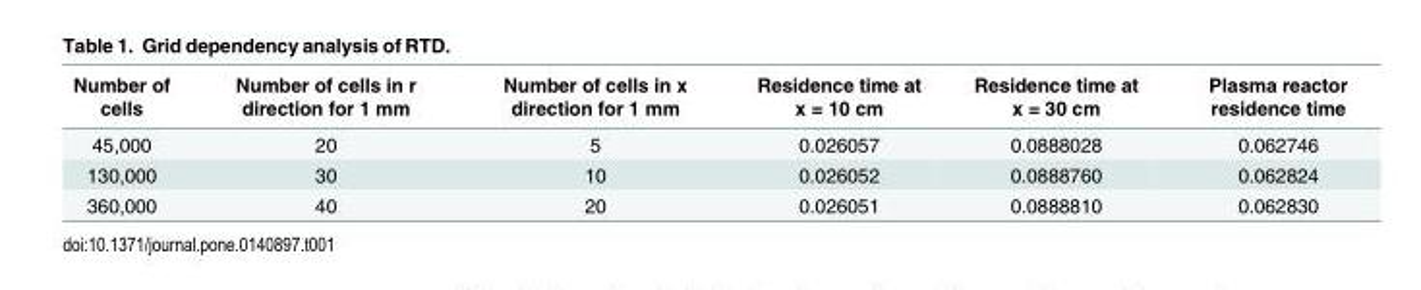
<table><thead><tr><td>Number of cells</td><td>Number of cells in r direction for 1 mm</td><td>Number of cells in x direction for 1 mm</td><td>Residence time at x = 10 cm</td><td>Residence time at x = 30 cm</td><td>Plasma reactor residence time</td></tr></thead><tbody><tr><td>45,000</td><td>20</td><td>5</td><td>0.026057</td><td>0.0888028</td><td>0.062746</td></tr><tr><td>130,000</td><td>30</td><td>10</td><td>0.026052</td><td>0.0888760</td><td>0.062824</td></tr><tr><td>360,000</td><td>40</td><td>20</td><td>0.026051</td><td>0.0888810</td><td>0.062830</td></tr></tbody></table>